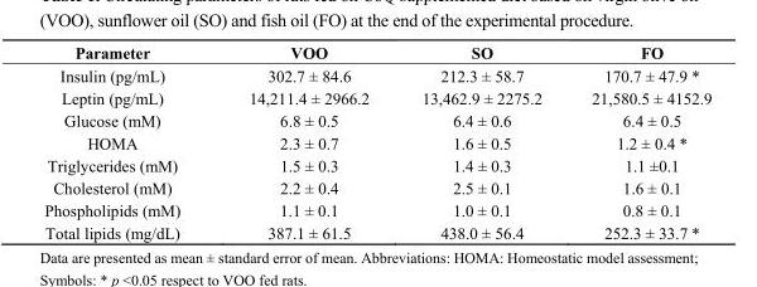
<table><thead><tr><td>Parameter</td><td>VOO</td><td>SO</td><td>FO</td></tr></thead><tbody><tr><td>Insulin (pg/mL)</td><td>302.7 ± 84.6</td><td>212.3 ± 58.7</td><td>170.7 ± 47.9 *</td></tr><tr><td>Leptin (pg/mL)</td><td>14,211.4 ± 2966.2</td><td>13,462.9 ± 2275.2</td><td>21,580.5 ± 4152.9</td></tr><tr><td>Glucose (mM)</td><td>6.8 ± 0.5</td><td>6.4 ± 0.6</td><td>6.4 ± 0.5</td></tr><tr><td>HOMA</td><td>2.3 ± 0.7</td><td>1.6 ± 0.5</td><td>1.2 ± 0.4 *</td></tr><tr><td>Triglycerides (mM)</td><td>1.5 ± 0.3</td><td>1.4 ± 0.3</td><td>1.1 ±0.1</td></tr><tr><td>Cholesterol (mM)</td><td>2.2 ± 0.4</td><td>2.5 ± 0.1</td><td>1.6 ± 0.1</td></tr><tr><td>Phospholipids (mM)</td><td>1.1 ± 0.1</td><td>1.0 ± 0.1</td><td>0.8 ± 0.1</td></tr><tr><td>Total lipids (mg/dL)</td><td>387.1 ± 61.5</td><td>438.0 ± 56.4</td><td>252.3 ± 33.7 *</td></tr></tbody></table>